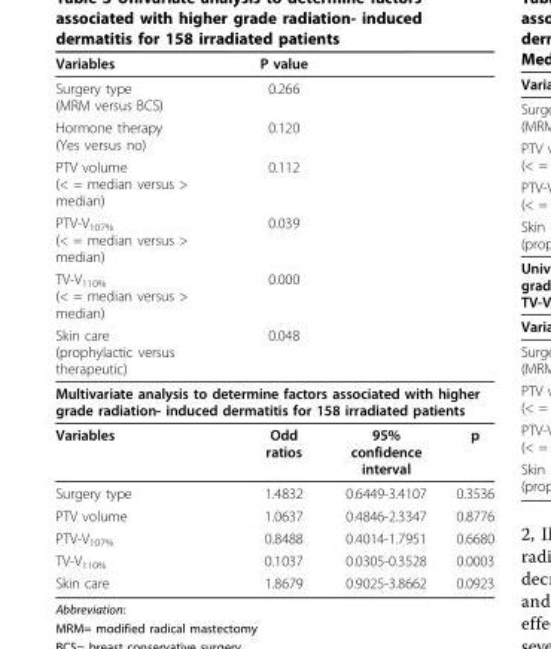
<table><thead><tr><td>Variables</td><td>P value</td><td></td><td></td></tr></thead><tbody><tr><td>Surgery type (MRM versus BCS)</td><td>0.266</td><td></td><td></td></tr><tr><td>Hormone therapy (Yes versus no)</td><td>0.120</td><td></td><td></td></tr><tr><td>PTV volume (&lt; = median versus &gt; median)</td><td>0.112</td><td></td><td></td></tr><tr><td>PTV-V<sub>107%</sub> (&lt; = median versus &gt; median)</td><td>0.039</td><td></td><td></td></tr><tr><td>TV-V<sub>110%</sub> (&lt; = median versus &gt; median)</td><td>0.000</td><td></td><td></td></tr><tr><td>Skin care (prophylactic versus therapeutic)</td><td>0.048</td><td></td><td></td></tr><tr><td colspan="4">Multivariate analysis to determine factors associated with higher grade radiation- induced dermatitis for 158 irradiated patients</td></tr><tr><td>Variables</td><td>Odd ratios</td><td>95% confidence interval</td><td>p</td></tr><tr><td>Surgery type</td><td>1.4832</td><td>0.6449-3.4107</td><td>0.3536</td></tr><tr><td>PTV volume</td><td>1.0637</td><td>0.4846-2.3347</td><td>0.8776</td></tr><tr><td>PTV-V<sub>107%</sub></td><td>0.8488</td><td>0.4014-1.7951</td><td>0.6680</td></tr><tr><td>TV-V<sub>110%</sub></td><td>0.1037</td><td>0.0305-0.3528</td><td>0.0003</td></tr><tr><td>Skin care</td><td>1.8679</td><td>0.9025-3.8662</td><td>0.0923</td></tr></tbody></table>